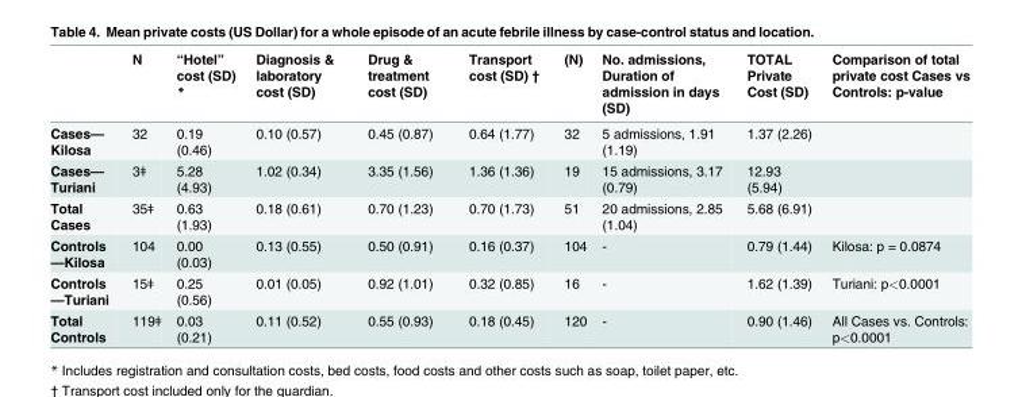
<table><thead><tr><td></td><td>N</td><td>“Hotel” cost (SD) *</td><td>Diagnosis &amp; laboratory cost (SD)</td><td>Drug &amp; treatment cost (SD)</td><td>Transport cost (SD) †</td><td>(N)</td><td>No. admissions, Duration of admission in days (SD)</td><td>TOTAL Private Cost (SD)</td><td>Comparison of total private cost Cases vs Controls: p-value</td></tr></thead><tbody><tr><td>Cases— Kilosa</td><td>32</td><td>0.19 (0.46)</td><td>0.10 (0.57)</td><td>0.45 (0.87)</td><td>0.64 (1.77)</td><td>32</td><td>5 admissions, 1.91 (1.19)</td><td>1.37 (2.26)</td><td></td></tr><tr><td>Cases— Turiani</td><td>3ǂ</td><td>5.28 (4.93)</td><td>1.02 (0.34)</td><td>3.35 (1.56)</td><td>1.36 (1.36)</td><td>19</td><td>15 admissions, 3.17 (0.79)</td><td>12.93 (5.94)</td><td></td></tr><tr><td>Total Cases</td><td>35ǂ</td><td>0.63 (1.93)</td><td>0.18 (0.61)</td><td>0.70 (1.23)</td><td>0.70 (1.73)</td><td>51</td><td>20 admissions, 2.85 (1.04)</td><td>5.68 (6.91)</td><td></td></tr><tr><td>Controls —Kilosa</td><td>104</td><td>0.00 (0.03)</td><td>0.13 (0.55)</td><td>0.50 (0.91)</td><td>0.16 (0.37)</td><td>104</td><td>-</td><td>0.79 (1.44)</td><td>Kilosa: p = 0.0874</td></tr><tr><td>Controls —Turiani</td><td>15ǂ</td><td>0.25 (0.56)</td><td>0.01 (0.05)</td><td>0.92 (1.01)</td><td>0.32 (0.85)</td><td>16</td><td>-</td><td>1.62 (1.39)</td><td>Turiani: p&lt;0.0001</td></tr><tr><td>Total Controls</td><td>119ǂ</td><td>0.03 (0.21)</td><td>0.11 (0.52)</td><td>0.55 (0.93)</td><td>0.18 (0.45)</td><td>120</td><td>-</td><td>0.90 (1.46)</td><td>All Cases vs. Controls: p&lt;0.0001</td></tr></tbody></table>